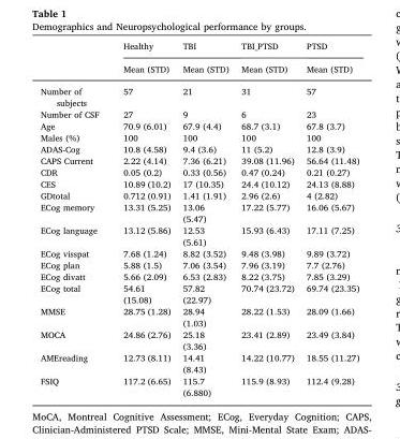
<table><thead><tr><td rowspan="2"></td><td rowspan="2">Healthy Mean (STD)</td><td rowspan="2">TBI Mean (STD)</td><td rowspan="2">TBI_PTSD Mean (STD)</td><td rowspan="2">PTSD Mean (STD)</td></tr><tr></tr></thead><tbody><tr><td>Number of subjects</td><td>57</td><td>21</td><td>31</td><td>57</td></tr><tr><td>Number of CSF</td><td>27</td><td>9</td><td>6</td><td>23</td></tr><tr><td>Age</td><td>70.9 (6.01)</td><td>67.9 (4.4)</td><td>68.7 (3.1)</td><td>67.8 (3.7)</td></tr><tr><td>Males (%)</td><td>100</td><td>100</td><td>100</td><td>100</td></tr><tr><td>ADAS-Cog</td><td>10.8 (4.58)</td><td>9.4 (3.6)</td><td>11 (5.2)</td><td>12.8 (3.9)</td></tr><tr><td>CAPS Current</td><td>2.22 (4.14)</td><td>7.36 (6.21)</td><td>39.08 (11.96)</td><td>56.64 (11.48)</td></tr><tr><td>CDR</td><td>0.05 (0.2)</td><td>0.33 (0.56)</td><td>0.47 (0.24)</td><td>0.21 (0.27)</td></tr><tr><td>CES</td><td>10.89 (10.2)</td><td>17 (10.35)</td><td>24.4 (10.12)</td><td>24.13 (8.88)</td></tr><tr><td>GDtotal</td><td>0.712 (0.91)</td><td>1.41 (1.91)</td><td>2.96 (2.6)</td><td>4 (2.82)</td></tr><tr><td>ECog memory</td><td>13.31 (5.25)</td><td>13.06 (5.47)</td><td>17.22 (5.77)</td><td>16.06 (5.67)</td></tr><tr><td>ECog language</td><td>13.12 (5.86)</td><td>12.53 (5.61)</td><td>15.93 (6.43)</td><td>17.11 (7.25)</td></tr><tr><td>ECog visspat</td><td>7.68 (1.24)</td><td>8.82 (3.52)</td><td>9.48 (3.98)</td><td>9.89 (3.72)</td></tr><tr><td>ECog plan</td><td>5.88 (1.5)</td><td>7.06 (3.54)</td><td>7.96 (3.19)</td><td>7.7 (2.76)</td></tr><tr><td>ECog divatt</td><td>5.66 (2.09)</td><td>6.53 (2.83)</td><td>8.22 (3.75)</td><td>7.85 (3.29)</td></tr><tr><td>ECog total</td><td>54.61 (15.08)</td><td>57.82 (22.97)</td><td>70.74 (23.72)</td><td>69.74 (23.35)</td></tr><tr><td>MMSE</td><td>28.75 (1.28)</td><td>28.94 (1.03)</td><td>28.22 (1.53)</td><td>28.09 (1.66)</td></tr><tr><td>MOCA</td><td>24.86 (2.76)</td><td>25.18 (3.36)</td><td>23.41 (2.89)</td><td>23.49 (3.84)</td></tr><tr><td>AMEreading</td><td>12.73 (8.11)</td><td>14.41 (8.43)</td><td>14.22 (10.77)</td><td>18.55 (11.27)</td></tr><tr><td>FSIQ</td><td>117.2 (6.65)</td><td>115.7 (6.880)</td><td>115.9 (8.93)</td><td>112.4 (9.28)</td></tr></tbody></table>